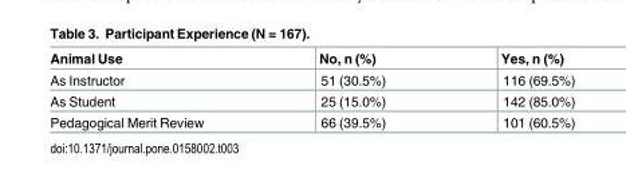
<table><thead><tr><td>Animal Use</td><td>No, n (%)</td><td>Yes, n (%)</td></tr></thead><tbody><tr><td>As Instructor</td><td>51 (30.5%)</td><td>116 (69.5%)</td></tr><tr><td>As Student</td><td>25 (15.0%)</td><td>142 (85.0%)</td></tr><tr><td>Pedagogical Merit Review</td><td>66 (39.5%)</td><td>101 (60.5%)</td></tr></tbody></table>